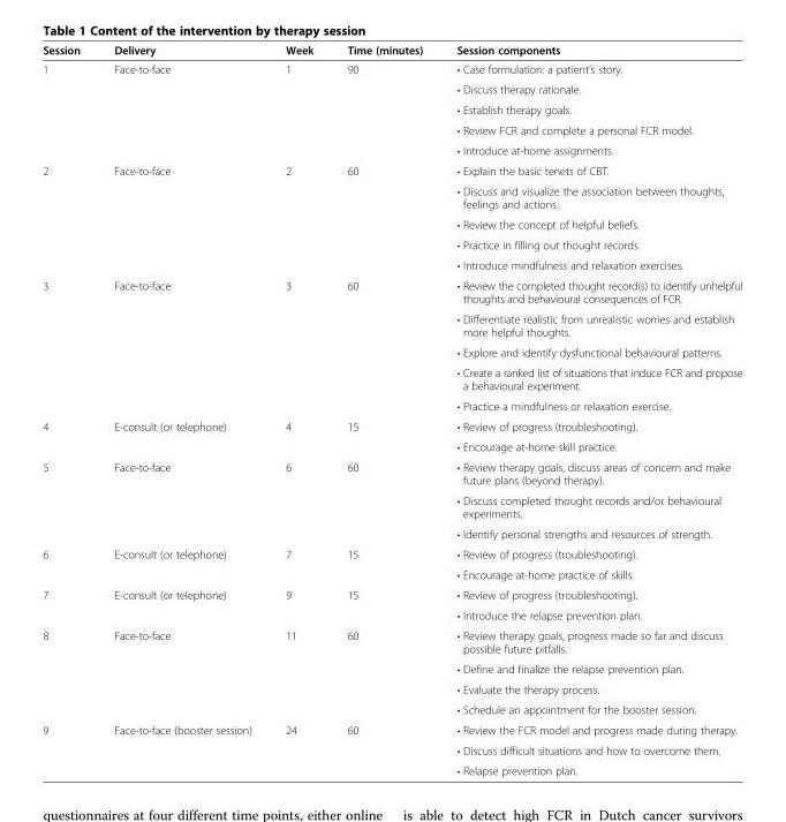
<table><thead><tr><td>Session</td><td>Delivery</td><td>Week</td><td>Time (minutes)</td><td>Session components</td></tr></thead><tbody><tr><td rowspan="5">1</td><td rowspan="5">Face-to-face</td><td rowspan="5">1</td><td rowspan="5">90</td><td>• Case formulation: a patient’s story.</td></tr><tr><td>• Discuss therapy rationale.</td></tr><tr><td>• Establish therapy goals.</td></tr><tr><td>• Review FCR and complete a personal FCR model.</td></tr><tr><td>• Introduce at-home assignments.</td></tr><tr><td rowspan="5">2</td><td rowspan="5">Face-to-face</td><td rowspan="5">2</td><td rowspan="5">60</td><td>• Explain the basic tenets of CBT.</td></tr><tr><td>• Discuss and visualize the association between thoughts, feelings and actions.</td></tr><tr><td>• Review the concept of helpful beliefs.</td></tr><tr><td>• Practice in filling out thought records.</td></tr><tr><td>• Introduce mindfulness and relaxation exercises.</td></tr><tr><td rowspan="5">3</td><td rowspan="5">Face-to-face</td><td rowspan="5">3</td><td rowspan="5">60</td><td>• Review the completed thought record(s) to identify unhelpful thoughts and behavioural consequences of FCR.</td></tr><tr><td>• Differentiate realistic from unrealistic worries and establish more helpful thoughts.</td></tr><tr><td>• Explore and identify dysfunctional behavioural patterns.</td></tr><tr><td>• Create a ranked list of situations that induce FCR and propose a behavioural experiment.</td></tr><tr><td>• Practice a mindfulness or relaxation exercise.</td></tr><tr><td rowspan="2">4</td><td rowspan="2">E-consult (or telephone)</td><td rowspan="2">4</td><td rowspan="2">15</td><td>• Review of progress (troubleshooting).</td></tr><tr><td>• Encourage at-home skill practice.</td></tr><tr><td rowspan="3">5</td><td rowspan="3">Face-to-face</td><td rowspan="3">6</td><td rowspan="3">60</td><td>• Review therapy goals, discuss areas of concern and make future plans (beyond therapy).</td></tr><tr><td>• Discuss completed thought records and/or behavioural experiments.</td></tr><tr><td>• Identify personal strengths and resources of strength.</td></tr><tr><td rowspan="2">6</td><td rowspan="2">E-consult (or telephone)</td><td rowspan="2">7</td><td rowspan="2">15</td><td>• Review of progress (troubleshooting).</td></tr><tr><td>• Encourage at-home practice of skills.</td></tr><tr><td rowspan="2">7</td><td rowspan="2">E-consult (or telephone)</td><td rowspan="2">9</td><td rowspan="2">15</td><td>• Review of progress (troubleshooting).</td></tr><tr><td>• Introduce the relapse prevention plan.</td></tr><tr><td rowspan="4">8</td><td rowspan="4">Face-to-face</td><td rowspan="4">11</td><td rowspan="4">60</td><td>• Review therapy goals, progress made so far and discuss possible future pitfalls.</td></tr><tr><td>• Define and finalize the relapse prevention plan.</td></tr><tr><td>• Evaluate the therapy process.</td></tr><tr><td>• Schedule an appointment for the booster session.</td></tr><tr><td rowspan="3">9</td><td rowspan="3">Face-to-face (booster session)</td><td rowspan="3">24</td><td rowspan="3">60</td><td>• Review the FCR model and progress made during therapy.</td></tr><tr><td>• Discuss difficult situations and how to overcome them.</td></tr><tr><td>• Relapse prevention plan.</td></tr></tbody></table>